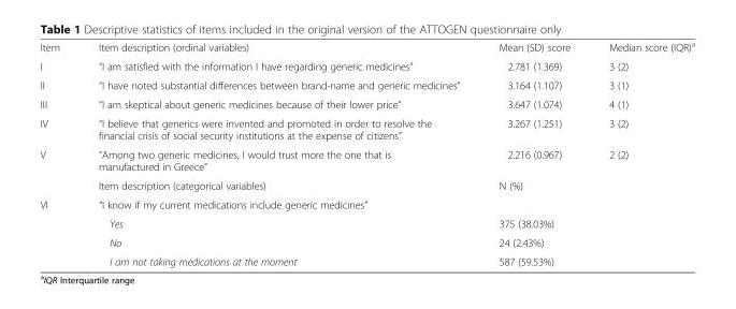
<table><tbody><tr><td>Item</td><td>Item description (ordinal variables)</td><td>Mean (SD) score</td><td>Median score (IQR)<sup>a</sup></td></tr><tr><td>I</td><td>“I am satisfied with the information I have regarding generic medicines”</td><td>2.781 (1.369)</td><td>3 (2)</td></tr><tr><td>II</td><td>“I have noted substantial differences between brand-name and generic medicines”</td><td>3.164 (1.107)</td><td>3 (1)</td></tr><tr><td>III</td><td>“I am skeptical about generic medicines because of their lower price”</td><td>3.647 (1.074)</td><td>4 (1)</td></tr><tr><td>IV</td><td>“I believe that generics were invented and promoted in order to resolve the financial crisis of social security institutions at the expense of citizens”</td><td>3.267 (1.251)</td><td>3 (2)</td></tr><tr><td rowspan="2">V</td><td>“Among two generic medicines, I would trust more the one that is manufactured in Greece”</td><td>2.216 (0.967)</td><td>2 (2)</td></tr><tr><td>Item description (categorical variables)</td><td colspan="2">N (%)</td></tr><tr><td rowspan="4">VI</td><td colspan="3">“I know if my current medications include generic medicines”</td></tr><tr><td>Yes</td><td colspan="2">375 (38.03%)</td></tr><tr><td>No</td><td colspan="2">24 (2.43%)</td></tr><tr><td>I am not taking medications at the moment</td><td colspan="2">587 (59.53%)</td></tr></tbody></table>